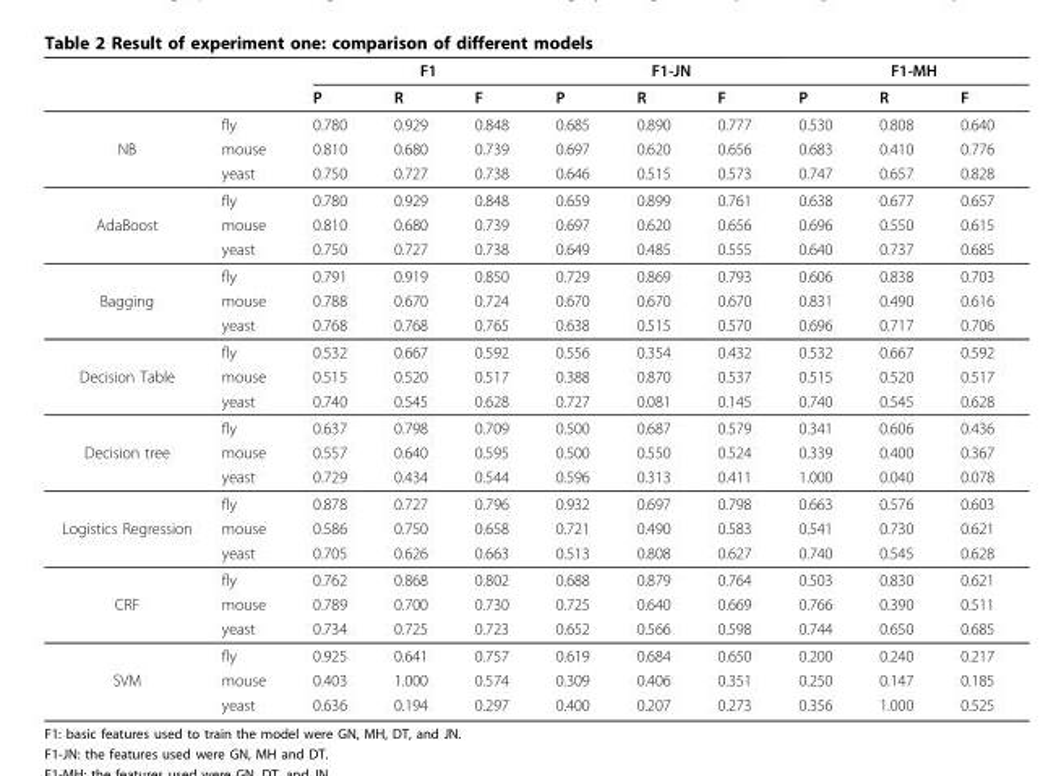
<table><thead><tr><td rowspan="2"></td><td rowspan="2"></td><td colspan="3">F1</td><td colspan="3">F1-JN</td><td colspan="3">F1-MH</td></tr><tr><td>P</td><td>R</td><td>F</td><td>P</td><td>R</td><td>F</td><td>P</td><td>R</td><td>F</td></tr></thead><tbody><tr><td></td><td>fly</td><td>0.780</td><td>0.929</td><td>0.848</td><td>0.685</td><td>0.890</td><td>0.777</td><td>0.530</td><td>0.808</td><td>0.640</td></tr><tr><td rowspan="3">NB</td><td>mouse</td><td>0.810</td><td>0.680</td><td>0.739</td><td>0.697</td><td>0.620</td><td>0.656</td><td>0.683</td><td>0.410</td><td>0.776</td></tr><tr><td>yeast</td><td>0.750</td><td>0.727</td><td>0.738</td><td>0.646</td><td>0.515</td><td>0.573</td><td>0.747</td><td>0.657</td><td>0.828</td></tr><tr><td>fly</td><td>0.780</td><td>0.929</td><td>0.848</td><td>0.659</td><td>0.899</td><td>0.761</td><td>0.638</td><td>0.677</td><td>0.657</td></tr><tr><td rowspan="3">AdaBoost</td><td>mouse</td><td>0.810</td><td>0.680</td><td>0.739</td><td>0.697</td><td>0.620</td><td>0.656</td><td>0.696</td><td>0.550</td><td>0.615</td></tr><tr><td>yeast</td><td>0.750</td><td>0.727</td><td>0.738</td><td>0.649</td><td>0.485</td><td>0.555</td><td>0.640</td><td>0.737</td><td>0.685</td></tr><tr><td>fly</td><td>0.791</td><td>0.919</td><td>0.850</td><td>0.729</td><td>0.869</td><td>0.793</td><td>0.606</td><td>0.838</td><td>0.703</td></tr><tr><td rowspan="3">Bagging</td><td>mouse</td><td>0.788</td><td>0.670</td><td>0.724</td><td>0.670</td><td>0.670</td><td>0.670</td><td>0.831</td><td>0.490</td><td>0.616</td></tr><tr><td>yeast</td><td>0.768</td><td>0.768</td><td>0.765</td><td>0.638</td><td>0.515</td><td>0.570</td><td>0.696</td><td>0.717</td><td>0.706</td></tr><tr><td>fly</td><td>0.532</td><td>0.667</td><td>0.592</td><td>0.556</td><td>0.354</td><td>0.432</td><td>0.532</td><td>0.667</td><td>0.592</td></tr><tr><td rowspan="3">Decision Table</td><td>mouse</td><td>0.515</td><td>0.520</td><td>0.517</td><td>0.388</td><td>0.870</td><td>0.537</td><td>0.515</td><td>0.520</td><td>0.517</td></tr><tr><td>yeast</td><td>0.740</td><td>0.545</td><td>0.628</td><td>0.727</td><td>0.081</td><td>0.145</td><td>0.740</td><td>0.545</td><td>0.628</td></tr><tr><td>fly</td><td>0.637</td><td>0.798</td><td>0.709</td><td>0.500</td><td>0.687</td><td>0.579</td><td>0.341</td><td>0.606</td><td>0.436</td></tr><tr><td rowspan="3">Decision tree</td><td>mouse</td><td>0.557</td><td>0.640</td><td>0.595</td><td>0.500</td><td>0.550</td><td>0.524</td><td>0.339</td><td>0.400</td><td>0.367</td></tr><tr><td>yeast</td><td>0.729</td><td>0.434</td><td>0.544</td><td>0.596</td><td>0.313</td><td>0.411</td><td>1.000</td><td>0.040</td><td>0.078</td></tr><tr><td>fly</td><td>0.878</td><td>0.727</td><td>0.796</td><td>0.932</td><td>0.697</td><td>0.798</td><td>0.663</td><td>0.576</td><td>0.603</td></tr><tr><td rowspan="3">Logistics Regression</td><td>mouse</td><td>0.586</td><td>0.750</td><td>0.658</td><td>0.721</td><td>0.490</td><td>0.583</td><td>0.541</td><td>0.730</td><td>0.621</td></tr><tr><td>yeast</td><td>0.705</td><td>0.626</td><td>0.663</td><td>0.513</td><td>0.808</td><td>0.627</td><td>0.740</td><td>0.545</td><td>0.628</td></tr><tr><td>fly</td><td>0.762</td><td>0.868</td><td>0.802</td><td>0.688</td><td>0.879</td><td>0.764</td><td>0.503</td><td>0.830</td><td>0.621</td></tr><tr><td rowspan="3">CRF</td><td>mouse</td><td>0.789</td><td>0.700</td><td>0.730</td><td>0.725</td><td>0.640</td><td>0.669</td><td>0.766</td><td>0.390</td><td>0.511</td></tr><tr><td>yeast</td><td>0.734</td><td>0.725</td><td>0.723</td><td>0.652</td><td>0.566</td><td>0.598</td><td>0.744</td><td>0.650</td><td>0.685</td></tr><tr><td>fly</td><td>0.925</td><td>0.641</td><td>0.757</td><td>0.619</td><td>0.684</td><td>0.650</td><td>0.200</td><td>0.240</td><td>0.217</td></tr><tr><td rowspan="2">SVM</td><td>mouse</td><td>0.403</td><td>1.000</td><td>0.574</td><td>0.309</td><td>0.406</td><td>0.351</td><td>0.250</td><td>0.147</td><td>0.185</td></tr><tr><td>yeast</td><td>0.636</td><td>0.194</td><td>0.297</td><td>0.400</td><td>0.207</td><td>0.273</td><td>0.356</td><td>1.000</td><td>0.525</td></tr></tbody></table>